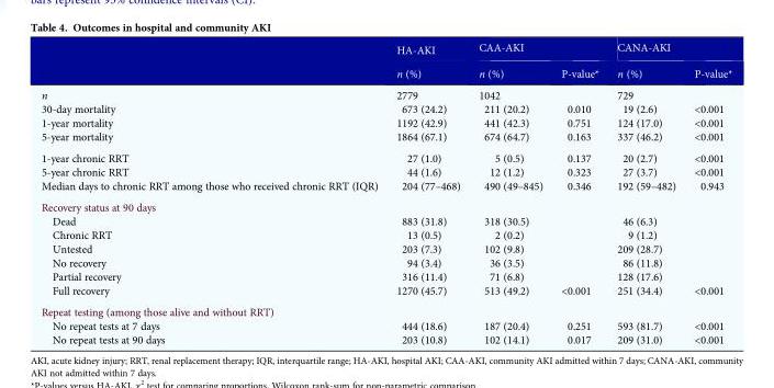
<table><thead><tr><td rowspan="2"></td><td rowspan="2">HA-AKI n (%)</td><td colspan="2">CAA-AKI</td><td colspan="2">CANA-AKI</td></tr><tr><td>n (%)</td><td>P-value*</td><td>n (%)</td><td>P-value*</td></tr></thead><tbody><tr><td>n</td><td>2779</td><td>1042</td><td></td><td>729</td><td></td></tr><tr><td>30-day mortality</td><td>673 (24.2)</td><td>211 (20.2)</td><td>0.010</td><td>19 (2.6)</td><td>&lt;0.001</td></tr><tr><td>1-year mortality</td><td>1192 (42.9)</td><td>441 (42.3)</td><td>0.751</td><td>124 (17.0)</td><td>&lt;0.001</td></tr><tr><td>5-year mortality</td><td>1864 (67.1)</td><td>674 (64.7)</td><td>0.163</td><td>337 (46.2)</td><td>&lt;0.001</td></tr><tr><td>1-year chronic RRT</td><td>27 (1.0)</td><td>5 (0.5)</td><td>0.137</td><td>20 (2.7)</td><td>&lt;0.001</td></tr><tr><td>5-year chronic RRT</td><td>44 (1.6)</td><td>12 (1.2)</td><td>0.323</td><td>27 (3.7)</td><td>&lt;0.001</td></tr><tr><td>Median days to chronic RRT among those who received chronic RRT (IQR)</td><td>204 (77–468)</td><td>490 (49–845)</td><td>0.346</td><td>192 (59–482)</td><td>0.943</td></tr><tr><td colspan="6">Recovery status at 90 days</td></tr><tr><td>Dead</td><td>883 (31.8)</td><td>318 (30.5)</td><td></td><td>46 (6.3)</td><td></td></tr><tr><td>Chronic RRT</td><td>13 (0.5)</td><td>2 (0.2)</td><td></td><td>9 (1.2)</td><td></td></tr><tr><td>Untested</td><td>203 (7.3)</td><td>102 (9.8)</td><td></td><td>209 (28.7)</td><td></td></tr><tr><td>No recovery</td><td>94 (3.4)</td><td>36 (3.5)</td><td></td><td>86 (11.8)</td><td></td></tr><tr><td>Partial recovery</td><td>316 (11.4)</td><td>71 (6.8)</td><td></td><td>128 (17.6)</td><td></td></tr><tr><td>Full recovery</td><td>1270 (45.7)</td><td>513 (49.2)</td><td>&lt;0.001</td><td>251 (34.4)</td><td>&lt;0.001</td></tr><tr><td colspan="6">Repeat testing (among those alive and without RRT)</td></tr><tr><td>No repeat tests at 7 days</td><td>444 (18.6)</td><td>187 (20.4)</td><td>0.251</td><td>593 (81.7)</td><td>&lt;0.001</td></tr><tr><td>No repeat tests at 90 days</td><td>203 (10.8)</td><td>102 (14.1)</td><td>0.017</td><td>209 (31.0)</td><td>&lt;0.001</td></tr></tbody></table>